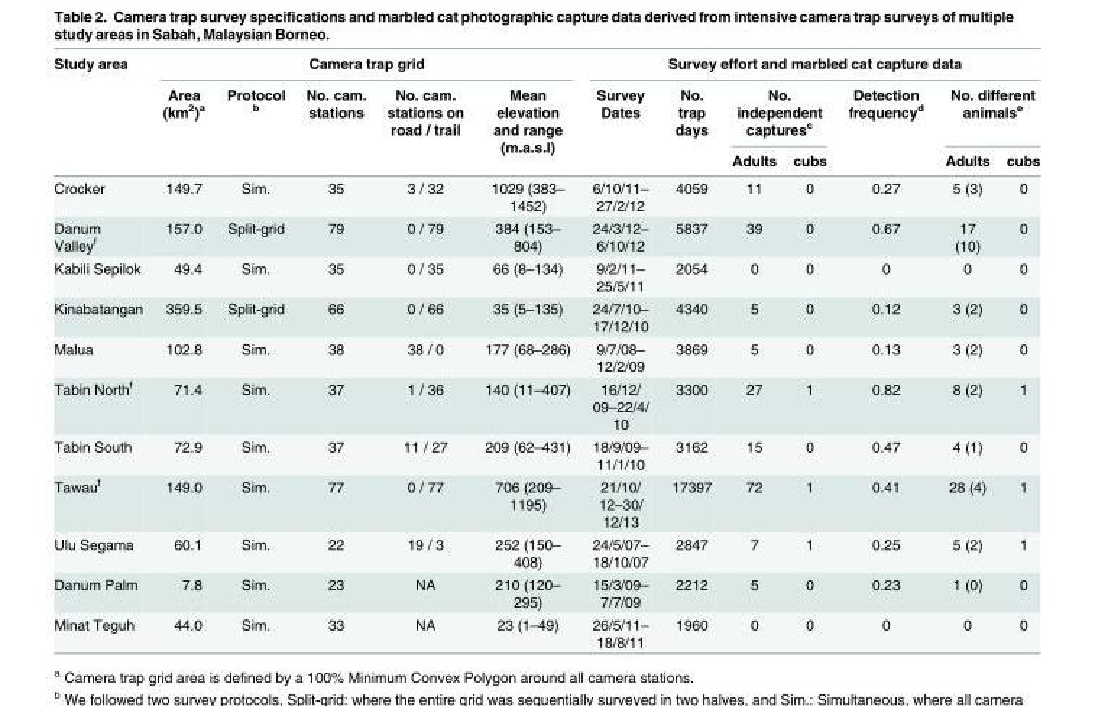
<table><thead><tr><td rowspan="3">Study area</td><td colspan="5">Camera trap grid</td><td colspan="7">Survey effort and marbled cat capture data</td></tr><tr><td rowspan="2">Area (km<sup>2</sup>)<sup>a</sup></td><td rowspan="2">Protocol <sup>b</sup></td><td rowspan="2">No. cam. stations</td><td rowspan="2">No. cam. stations on road / trail</td><td rowspan="2">Mean elevation and range (m.a.s.l)</td><td rowspan="2">Survey Dates</td><td rowspan="2">No. trap days</td><td colspan="2">No. independent captures<sup>c</sup></td><td rowspan="2">Detection frequency<sup>d</sup></td><td colspan="2">No. different animals<sup>e</sup></td></tr><tr><td>Adults</td><td>cubs</td><td>Adults</td><td>cubs</td></tr></thead><tbody><tr><td>Crocker</td><td>149.7</td><td>Sim.</td><td>35</td><td>3 / 32</td><td>1029 (383– 1452)</td><td>6/10/11– 27/2/12</td><td>4059</td><td>11</td><td>0</td><td>0.27</td><td>5 (3)</td><td>0</td></tr><tr><td>Danum Valley<sup>f</sup></td><td>157.0</td><td>Split-grid</td><td>79</td><td>0 / 79</td><td>384 (153– 804)</td><td>24/3/12– 6/10/12</td><td>5837</td><td>39</td><td>0</td><td>0.67</td><td>17 (10)</td><td>0</td></tr><tr><td>Kabili Sepilok</td><td>49.4</td><td>Sim.</td><td>35</td><td>0 / 35</td><td>66 (8–134)</td><td>9/2/11– 25/5/11</td><td>2054</td><td>0</td><td>0</td><td>0</td><td>0</td><td>0</td></tr><tr><td>Kinabatangan</td><td>359.5</td><td>Split-grid</td><td>66</td><td>0 / 66</td><td>35 (5–135)</td><td>24/7/10– 17/12/10</td><td>4340</td><td>5</td><td>0</td><td>0.12</td><td>3 (2)</td><td>0</td></tr><tr><td>Malua</td><td>102.8</td><td>Sim.</td><td>38</td><td>38 / 0</td><td>177 (68–286)</td><td>9/7/08– 12/2/09</td><td>3869</td><td>5</td><td>0</td><td>0.13</td><td>3 (2)</td><td>0</td></tr><tr><td>Tabin North<sup>f</sup></td><td>71.4</td><td>Sim.</td><td>37</td><td>1 / 36</td><td>140 (11–407)</td><td>16/12/ 09–22/4/ 10</td><td>3300</td><td>27</td><td>1</td><td>0.82</td><td>8 (2)</td><td>1</td></tr><tr><td>Tabin South</td><td>72.9</td><td>Sim.</td><td>37</td><td>11 / 27</td><td>209 (62–431)</td><td>18/9/09– 11/1/10</td><td>3162</td><td>15</td><td>0</td><td>0.47</td><td>4 (1)</td><td>0</td></tr><tr><td>Tawau<sup>f</sup></td><td>149.0</td><td>Sim.</td><td>77</td><td>0 / 77</td><td>706 (209– 1195)</td><td>21/10/ 12–30/ 12/13</td><td>17397</td><td>72</td><td>1</td><td>0.41</td><td>28 (4)</td><td>1</td></tr><tr><td>Ulu Segama</td><td>60.1</td><td>Sim.</td><td>22</td><td>19 / 3</td><td>252 (150– 408)</td><td>24/5/07– 18/10/07</td><td>2847</td><td>7</td><td>1</td><td>0.25</td><td>5 (2)</td><td>1</td></tr><tr><td>Danum Palm</td><td>7.8</td><td>Sim.</td><td>23</td><td>NA</td><td>210 (120– 295)</td><td>15/3/09– 7/7/09</td><td>2212</td><td>5</td><td>0</td><td>0.23</td><td>1 (0)</td><td>0</td></tr><tr><td>Minat Teguh</td><td>44.0</td><td>Sim.</td><td>33</td><td>NA</td><td>23 (1–49)</td><td>26/5/11– 18/8/11</td><td>1960</td><td>0</td><td>0</td><td>0</td><td>0</td><td>0</td></tr></tbody></table>